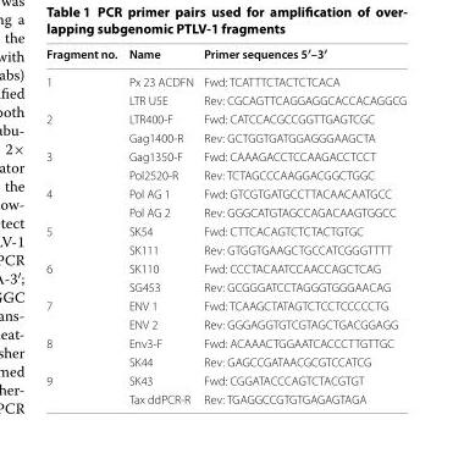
<table><thead><tr><td>Fragment no.</td><td>Name</td><td>Primer sequences 5′–3′</td></tr></thead><tbody><tr><td rowspan="2">1</td><td>Px 23 ACDFN</td><td>Fwd: TCATTTCTACTCTCACA</td></tr><tr><td>LTR U5E</td><td>Rev: CGCAGTTCAGGAGGCACCACAGGCG</td></tr><tr><td rowspan="2">2</td><td>LTR400‑F</td><td>Fwd: CATCCACGCCGGTTGAGTCGC</td></tr><tr><td>Gag1400‑R</td><td>Rev: GCTGGTGATGGAGGGAAGCTA</td></tr><tr><td rowspan="2">3</td><td>Gag1350‑F</td><td>Fwd: CAAAGACCTCCAAGACCTCCT</td></tr><tr><td>Pol2520‑R</td><td>Rev: TCTAGCCCAAGGACGGCTGGC</td></tr><tr><td rowspan="2">4</td><td>Pol AG 1</td><td>Fwd: GTCGTGATGCCTTACAACAATGCC</td></tr><tr><td>Pol AG 2</td><td>Rev: GGGCATGTAGCCAGACAAGTGGCC</td></tr><tr><td rowspan="2">5</td><td>SK54</td><td>Fwd: CTTCACAGTCTCTACTGTGC</td></tr><tr><td>SK111</td><td>Rev: GTGGTGAAGCTGCCATCGGGTTTT</td></tr><tr><td rowspan="2">6</td><td>SK110</td><td>Fwd: CCCTACAATCCAACCAGCTCAG</td></tr><tr><td>SG453</td><td>Rev: GCGGGATCCTAGGGTGGGAACAG</td></tr><tr><td rowspan="2">7</td><td>ENV 1</td><td>Fwd: TCAAGCTATAGTCTCCTCCCCCTG</td></tr><tr><td>ENV 2</td><td>Rev: GGGAGGTGTCGTAGCTGACGGAGG</td></tr><tr><td rowspan="2">8</td><td>Env3‑F</td><td>Fwd: ACAAACTGGAATCACCCTTGTTGC</td></tr><tr><td>SK44</td><td>Rev: GAGCCGATAACGCGTCCATCG</td></tr><tr><td rowspan="2">9</td><td>SK43</td><td>Fwd: CGGATACCCAGTCTACGTGT</td></tr><tr><td>Tax ddPCR‑R</td><td>Rev: TGAGGCCGTGTGAGAGTAGA</td></tr></tbody></table>